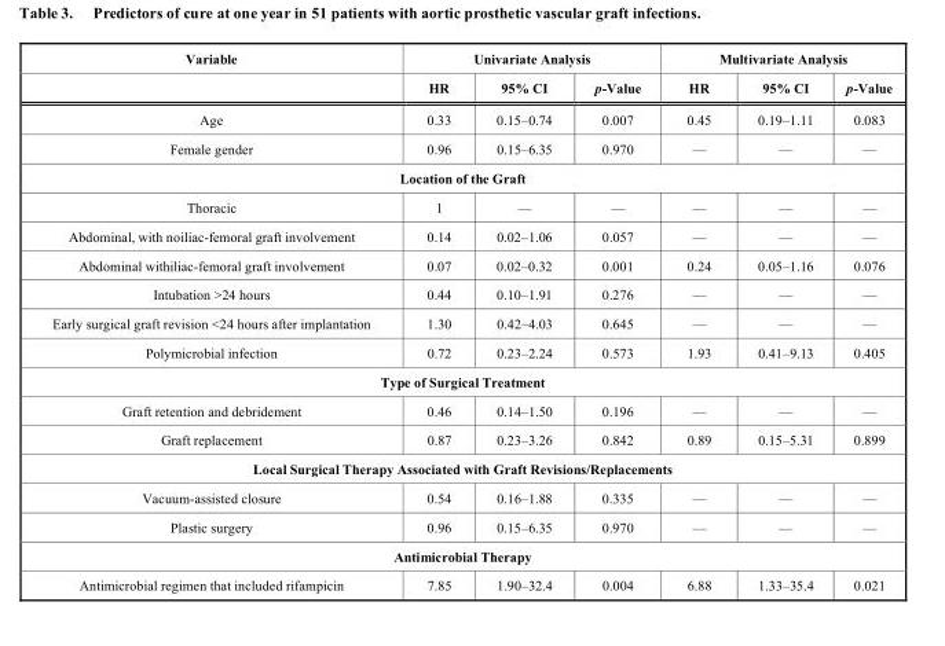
<table><thead><tr><td rowspan="2">Variable</td><td colspan="3">Univariate Analysis</td><td colspan="3">Multivariate Analysis</td></tr><tr><td>HR</td><td>95% CI</td><td>p-Value</td><td>HR</td><td>95% CI</td><td>p-Value</td></tr></thead><tbody><tr><td>Age</td><td>0.33</td><td>0.15–0.74</td><td>0.007</td><td>0.45</td><td>0.19–1.11</td><td>0.083</td></tr><tr><td>Female gender</td><td>0.96</td><td>0.15–6.35</td><td>0.970</td><td>—</td><td>—</td><td>—</td></tr><tr><td colspan="7">Location of the Graft</td></tr><tr><td>Thoracic</td><td>1</td><td>—</td><td>—</td><td>—</td><td>—</td><td>—</td></tr><tr><td>Abdominal, with noiliac-femoral graft involvement</td><td>0.14</td><td>0.02–1.06</td><td>0.057</td><td>—</td><td>—</td><td>—</td></tr><tr><td>Abdominal withiliac-femoral graft involvement</td><td>0.07</td><td>0.02–0.32</td><td>0.001</td><td>0.24</td><td>0.05–1.16</td><td>0.076</td></tr><tr><td>Intubation &gt;24 hours</td><td>0.44</td><td>0.10–1.91</td><td>0.276</td><td>—</td><td>—</td><td>—</td></tr><tr><td>Early surgical graft revision &lt;24 hours after implantation</td><td>1.30</td><td>0.42–4.03</td><td>0.645</td><td>—</td><td>—</td><td>—</td></tr><tr><td>Polymicrobial infection</td><td>0.72</td><td>0.23–2.24</td><td>0.573</td><td>1.93</td><td>0.41–9.13</td><td>0.405</td></tr><tr><td colspan="7">Type of Surgical Treatment</td></tr><tr><td>Graft retention and debridement</td><td>0.46</td><td>0.14–1.50</td><td>0.196</td><td>—</td><td>—</td><td>—</td></tr><tr><td>Graft replacement</td><td>0.87</td><td>0.23–3.26</td><td>0.842</td><td>0.89</td><td>0.15–5.31</td><td>0.899</td></tr><tr><td colspan="7">Local Surgical Therapy Associated with Graft Revisions/Replacements</td></tr><tr><td>Vacuum-assisted closure</td><td>0.54</td><td>0.16–1.88</td><td>0.335</td><td>—</td><td>—</td><td>—</td></tr><tr><td>Plastic surgery</td><td>0.96</td><td>0.15–6.35</td><td>0.970</td><td>—</td><td>—</td><td>—</td></tr><tr><td colspan="7">Antimicrobial Therapy</td></tr><tr><td>Antimicrobial regimen that included rifampicin</td><td>7.85</td><td>1.90–32.4</td><td>0.004</td><td>6.88</td><td>1.33–35.4</td><td>0.021</td></tr></tbody></table>